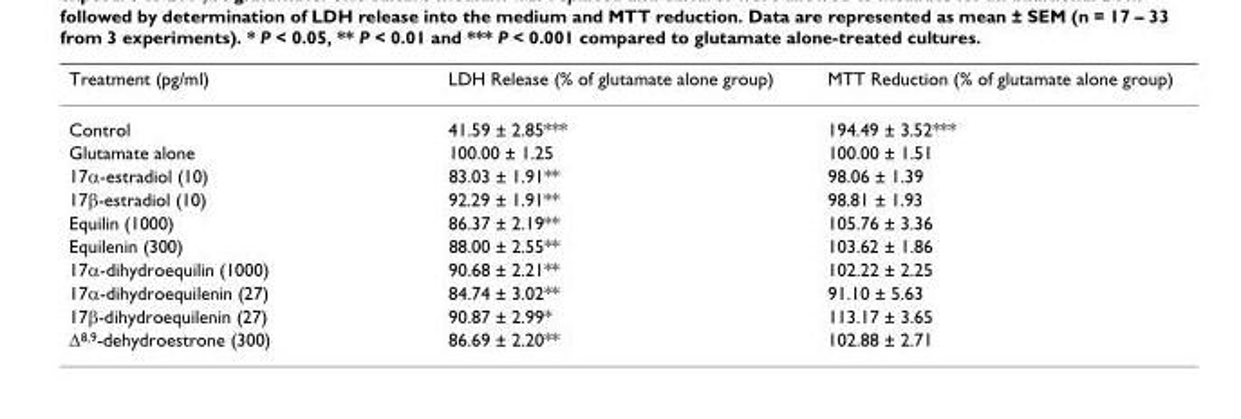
<table><thead><tr><td>Treatment (pg/ml)</td><td>LDH Release (% of glutamate alone group)</td><td>MTT Reduction (% of glutamate alone group)</td></tr></thead><tbody><tr><td>Control</td><td>41.59 ± 2.85***</td><td>194.49 ± 3.52***</td></tr><tr><td>Glutamate alone</td><td>100.00 ± 1.25</td><td>100.00 ± 1.51</td></tr><tr><td>17α-estradiol (10)</td><td>83.03 ± 1.91**</td><td>98.06 ± 1.39</td></tr><tr><td>17β-estradiol (10)</td><td>92.29 ± 1.91**</td><td>98.81 ± 1.93</td></tr><tr><td>Equilin (1000)</td><td>86.37 ± 2.19**</td><td>105.76 ± 3.36</td></tr><tr><td>Equilenin (300)</td><td>88.00 ± 2.55**</td><td>103.62 ± 1.86</td></tr><tr><td>17α-dihydroequilin (1000)</td><td>90.68 ± 2.21**</td><td>102.22 ± 2.25</td></tr><tr><td>17α-dihydroequilenin (27)</td><td>84.74 ± 3.02**</td><td>91.10 ± 5.63</td></tr><tr><td>17β-dihydroequilenin (27)</td><td>90.87 ± 2.99*</td><td>113.17 ± 3.65</td></tr><tr><td>∆8,9-dehydroestrone (300)</td><td>86.69 ± 2.20**</td><td>102.88 ± 2.71</td></tr></tbody></table>